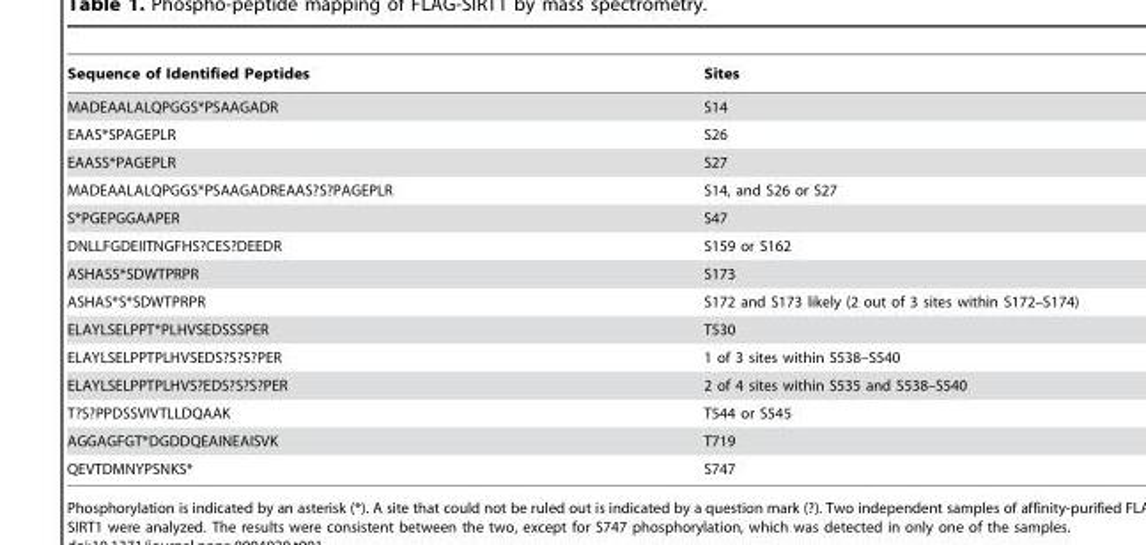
<table><thead><tr><td>Sequence of Identified Peptides</td><td>Sites</td></tr></thead><tbody><tr><td>MADEAALALQPGGS*PSAAGADR</td><td>S14</td></tr><tr><td>EAAS*SPAGEPLR</td><td>S26</td></tr><tr><td>EAASS*PAGEPLR</td><td>S27</td></tr><tr><td>MADEAALALQPGGS*PSAAGADREAAS?S?PAGEPLR</td><td>S14, and S26 or S27</td></tr><tr><td>S*PGEPGGAAPER</td><td>S47</td></tr><tr><td>DNLLFGDEIITNGFHS?CES?DEEDR</td><td>S159 or S162</td></tr><tr><td>ASHASS*SDWTPRPR</td><td>S173</td></tr><tr><td>ASHAS*S*SDWTPRPR</td><td>S172 and S173 likely (2 out of 3 sites within S172–S174)</td></tr><tr><td>ELAYLSELPPT*PLHVSEDSSSPER</td><td>T530</td></tr><tr><td>ELAYLSELPPTPLHVSEDS?S?S?PER</td><td>1 of 3 sites within S538–S540</td></tr><tr><td>ELAYLSELPPTPLHVS?EDS?S?S?PER</td><td>2 of 4 sites within S535 and S538–S540</td></tr><tr><td>T?S?PPDSSVIVTLLDQAAK</td><td>T544 or S545</td></tr><tr><td>AGGAGFGT*DGDDQEAINEAISVK</td><td>T719</td></tr><tr><td>QEVTDMNYPSNKS*</td><td>S747</td></tr></tbody></table>